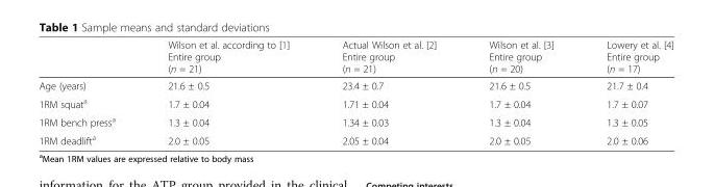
<table><thead><tr><td></td><td>Wilson et al. according to [1] Entire group (n = 21)</td><td>Actual Wilson et al. [2] Entire group (n = 21)</td><td>Wilson et al. [3] Entire group (n = 20)</td><td>Lowery et al. [4] Entire group (n = 17)</td></tr></thead><tbody><tr><td>Age (years)</td><td>21.6 ± 0.5</td><td>23.4 ± 0.7</td><td>21.6 ± 0.5</td><td>21.7 ± 0.4</td></tr><tr><td>1RM squat<sup>a</sup></td><td>1.7 ± 0.04</td><td>1.71 ± 0.04</td><td>1.7 ± 0.04</td><td>1.7 ± 0.07</td></tr><tr><td>1RM bench press<sup>a</sup></td><td>1.3 ± 0.04</td><td>1.34 ± 0.03</td><td>1.3 ± 0.04</td><td>1.3 ± 0.05</td></tr><tr><td>1RM deadlift<sup>a</sup></td><td>2.0 ± 0.05</td><td>2.05 ± 0.04</td><td>2.0 ± 0.05</td><td>2.0 ± 0.06</td></tr></tbody></table>